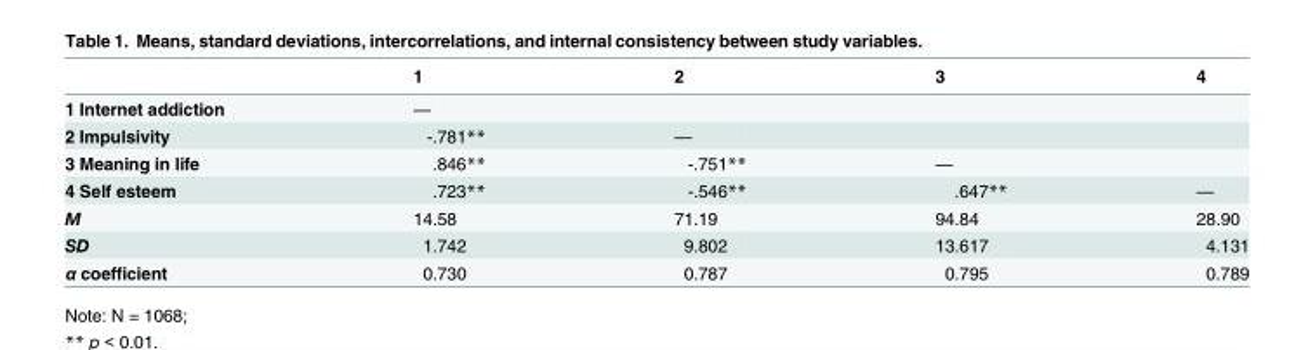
<table><thead><tr><td></td><td>1</td><td>2</td><td>3</td><td>4</td></tr></thead><tbody><tr><td>1 Internet addiction</td><td>—</td><td></td><td></td><td></td></tr><tr><td>2 Impulsivity</td><td>-.781**</td><td>—</td><td></td><td></td></tr><tr><td>3 Meaning in life</td><td>.846**</td><td>-.751**</td><td>—</td><td></td></tr><tr><td>4 Self esteem</td><td>.723**</td><td>-.546**</td><td>.647**</td><td>—</td></tr><tr><td>M</td><td>14.58</td><td>71.19</td><td>94.84</td><td>28.90</td></tr><tr><td>SD</td><td>1.742</td><td>9.802</td><td>13.617</td><td>4.131</td></tr><tr><td>α coefficient</td><td>0.730</td><td>0.787</td><td>0.795</td><td>0.789</td></tr></tbody></table>